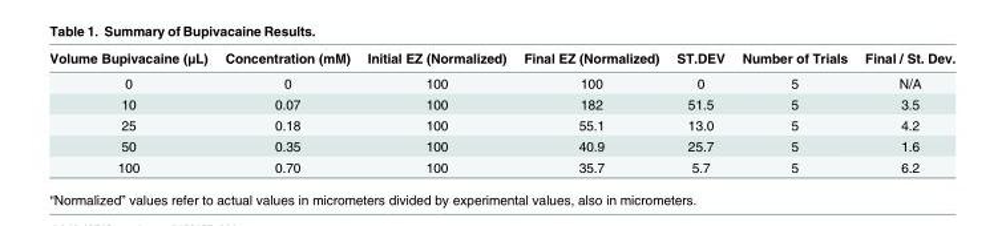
<table><thead><tr><td>Volume Bupivacaine (μL)</td><td>Concentration (mM)</td><td>Initial EZ (Normalized)</td><td>Final EZ (Normalized)</td><td>ST.DEV</td><td>Number of Trials</td><td>Final / St. Dev.</td></tr></thead><tbody><tr><td>0</td><td>0</td><td>100</td><td>100</td><td>0</td><td>5</td><td>N/A</td></tr><tr><td>10</td><td>0.07</td><td>100</td><td>182</td><td>51.5</td><td>5</td><td>3.5</td></tr><tr><td>25</td><td>0.18</td><td>100</td><td>55.1</td><td>13.0</td><td>5</td><td>4.2</td></tr><tr><td>50</td><td>0.35</td><td>100</td><td>40.9</td><td>25.7</td><td>5</td><td>1.6</td></tr><tr><td>100</td><td>0.70</td><td>100</td><td>35.7</td><td>5.7</td><td>5</td><td>6.2</td></tr></tbody></table>